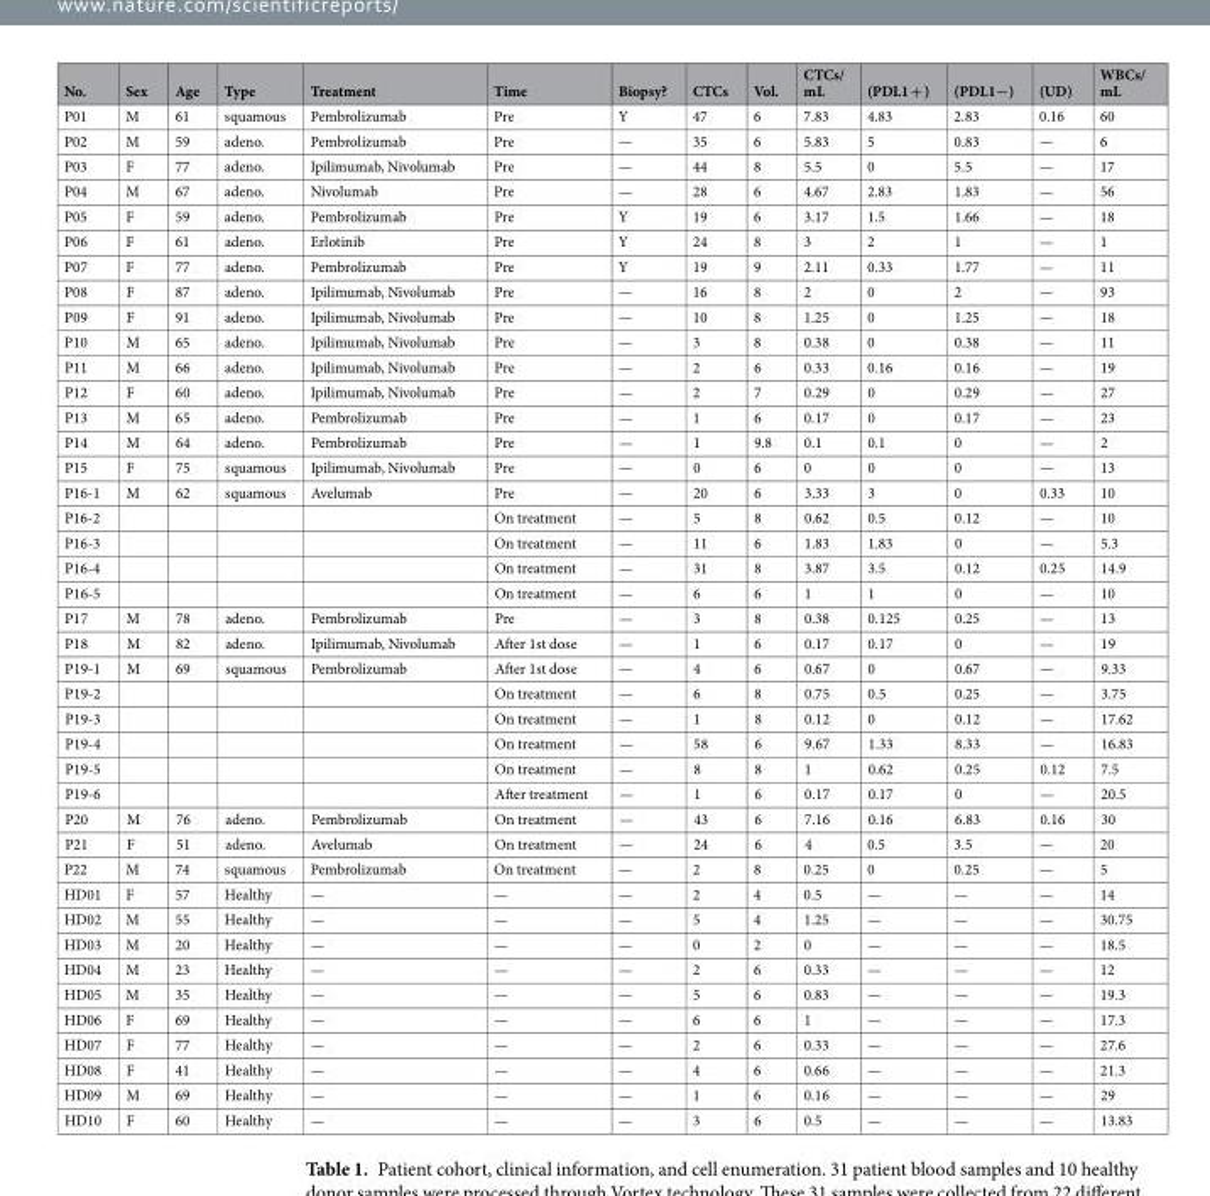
<table><thead><tr><td>No.</td><td>Sex</td><td>Age</td><td>Type</td><td>Treatment</td><td>Time</td><td>Biopsy?</td><td>CTCs</td><td>Vol.</td><td>CTCs/ mL</td><td>(PDL1 + )</td><td>(PDL1−)</td><td>(UD)</td><td>WBCs/ mL</td></tr></thead><tbody><tr><td>P01</td><td>M</td><td>61</td><td>squamous</td><td>Pembrolizumab</td><td>Pre</td><td>Y</td><td>47</td><td>6</td><td>7.83</td><td>4.83</td><td>2.83</td><td>0.16</td><td>60</td></tr><tr><td>P02</td><td>M</td><td>59</td><td>adeno.</td><td>Pembrolizumab</td><td>Pre</td><td>—</td><td>35</td><td>6</td><td>5.83</td><td>5</td><td>0.83</td><td>—</td><td>6</td></tr><tr><td>P03</td><td>F</td><td>77</td><td>adeno.</td><td>Ipilimumab, Nivolumab</td><td>Pre</td><td>—</td><td>44</td><td>8</td><td>5.5</td><td>0</td><td>5.5</td><td>—</td><td>17</td></tr><tr><td>P04</td><td>M</td><td>67</td><td>adeno.</td><td>Nivolumab</td><td>Pre</td><td>—</td><td>28</td><td>6</td><td>4.67</td><td>2.83</td><td>1.83</td><td>—</td><td>56</td></tr><tr><td>P05</td><td>F</td><td>59</td><td>adeno.</td><td>Pembrolizumab</td><td>Pre</td><td>Y</td><td>19</td><td>6</td><td>3.17</td><td>1.5</td><td>1.66</td><td>—</td><td>18</td></tr><tr><td>P06</td><td>F</td><td>61</td><td>adeno.</td><td>Erlotinib</td><td>Pre</td><td>Y</td><td>24</td><td>8</td><td>3</td><td>2</td><td>1</td><td>—</td><td>1</td></tr><tr><td>P07</td><td>F</td><td>77</td><td>adeno.</td><td>Pembrolizumab</td><td>Pre</td><td>Y</td><td>19</td><td>9</td><td>2.11</td><td>0.33</td><td>1.77</td><td>—</td><td>11</td></tr><tr><td>P08</td><td>F</td><td>87</td><td>adeno.</td><td>Ipilimumab, Nivolumab</td><td>Pre</td><td>—</td><td>16</td><td>8</td><td>2</td><td>0</td><td>2</td><td>—</td><td>93</td></tr><tr><td>P09</td><td>F</td><td>91</td><td>adeno.</td><td>Ipilimumab, Nivolumab</td><td>Pre</td><td>—</td><td>10</td><td>8</td><td>1.25</td><td>0</td><td>1.25</td><td>—</td><td>18</td></tr><tr><td>P10</td><td>M</td><td>65</td><td>adeno.</td><td>Ipilimumab, Nivolumab</td><td>Pre</td><td>—</td><td>3</td><td>8</td><td>0.38</td><td>0</td><td>0.38</td><td>—</td><td>11</td></tr><tr><td>P11</td><td>M</td><td>66</td><td>adeno.</td><td>Ipilimumab, Nivolumab</td><td>Pre</td><td>—</td><td>2</td><td>6</td><td>0.33</td><td>0.16</td><td>0.16</td><td>—</td><td>19</td></tr><tr><td>P12</td><td>F</td><td>60</td><td>adeno.</td><td>Ipilimumab, Nivolumab</td><td>Pre</td><td>—</td><td>2</td><td>7</td><td>0.29</td><td>0</td><td>0.29</td><td>—</td><td>27</td></tr><tr><td>P13</td><td>M</td><td>65</td><td>adeno.</td><td>Pembrolizumab</td><td>Pre</td><td>—</td><td>1</td><td>6</td><td>0.17</td><td>0</td><td>0.17</td><td>—</td><td>23</td></tr><tr><td>P14</td><td>M</td><td>64</td><td>adeno.</td><td>Pembrolizumab</td><td>Pre</td><td>—</td><td>1</td><td>9.8</td><td>0.1</td><td>0.1</td><td>0</td><td>—</td><td>2</td></tr><tr><td>P15</td><td>F</td><td>75</td><td>squamous</td><td>Ipilimumab, Nivolumab</td><td>Pre</td><td>—</td><td>0</td><td>6</td><td>0</td><td>0</td><td>0</td><td>—</td><td>13</td></tr><tr><td>P16-1</td><td>M</td><td>62</td><td>squamous</td><td>Avelumab</td><td>Pre</td><td>—</td><td>20</td><td>6</td><td>3.33</td><td>3</td><td>0</td><td>0.33</td><td>10</td></tr><tr><td>P16-2</td><td></td><td></td><td></td><td></td><td>On treatment</td><td>—</td><td>5</td><td>8</td><td>0.62</td><td>0.5</td><td>0.12</td><td>—</td><td>10</td></tr><tr><td>P16-3</td><td></td><td></td><td></td><td></td><td>On treatment</td><td>—</td><td>11</td><td>6</td><td>1.83</td><td>1.83</td><td>0</td><td>—</td><td>5.3</td></tr><tr><td>P16-4</td><td></td><td></td><td></td><td></td><td>On treatment</td><td>—</td><td>31</td><td>8</td><td>3.87</td><td>3.5</td><td>0.12</td><td>0.25</td><td>14.9</td></tr><tr><td>P16-5</td><td></td><td></td><td></td><td></td><td>On treatment</td><td>—</td><td>6</td><td>6</td><td>1</td><td>1</td><td>0</td><td>—</td><td>10</td></tr><tr><td>P17</td><td>M</td><td>78</td><td>adeno.</td><td>Pembrolizumab</td><td>Pre</td><td>—</td><td>3</td><td>8</td><td>0.38</td><td>0.125</td><td>0.25</td><td>—</td><td>13</td></tr><tr><td>P18</td><td>M</td><td>82</td><td>adeno.</td><td>Ipilimumab, Nivolumab</td><td>After 1st dose</td><td>—</td><td>1</td><td>6</td><td>0.17</td><td>0.17</td><td>0</td><td>—</td><td>19</td></tr><tr><td>P19-1</td><td>M</td><td>69</td><td>squamous</td><td>Pembrolizumab</td><td>After 1st dose</td><td>—</td><td>4</td><td>6</td><td>0.67</td><td>0</td><td>0.67</td><td>—</td><td>9.33</td></tr><tr><td>P19-2</td><td></td><td></td><td></td><td></td><td>On treatment</td><td>—</td><td>6</td><td>8</td><td>0.75</td><td>0.5</td><td>0.25</td><td>—</td><td>3.75</td></tr><tr><td>P19-3</td><td></td><td></td><td></td><td></td><td>On treatment</td><td>—</td><td>1</td><td>8</td><td>0.12</td><td>0</td><td>0.12</td><td>—</td><td>17.62</td></tr><tr><td>P19-4</td><td></td><td></td><td></td><td></td><td>On treatment</td><td>—</td><td>58</td><td>6</td><td>9.67</td><td>1.33</td><td>8.33</td><td>—</td><td>16.83</td></tr><tr><td>P19-5</td><td></td><td></td><td></td><td></td><td>On treatment</td><td>—</td><td>8</td><td>8</td><td>1</td><td>0.62</td><td>0.25</td><td>0.12</td><td>7.5</td></tr><tr><td>P19-6</td><td></td><td></td><td></td><td></td><td>After treatment</td><td>—</td><td>1</td><td>6</td><td>0.17</td><td>0.17</td><td>0</td><td>—</td><td>20.5</td></tr><tr><td>P20</td><td>M</td><td>76</td><td>adeno.</td><td>Pembrolizumab</td><td>On treatment</td><td>—</td><td>43</td><td>6</td><td>7.16</td><td>0.16</td><td>6.83</td><td>0.16</td><td>30</td></tr><tr><td>P21</td><td>F</td><td>51</td><td>adeno.</td><td>Avelumab</td><td>On treatment</td><td>—</td><td>24</td><td>6</td><td>4</td><td>0.5</td><td>3.5</td><td>—</td><td>20</td></tr><tr><td>P22</td><td>M</td><td>74</td><td>squamous</td><td>Pembrolizumab</td><td>On treatment</td><td>—</td><td>2</td><td>8</td><td>0.25</td><td>0</td><td>0.25</td><td>—</td><td>5</td></tr><tr><td>HD01</td><td>F</td><td>57</td><td>Healthy</td><td>—</td><td>—</td><td>—</td><td>2</td><td>4</td><td>0.5</td><td>—</td><td>—</td><td>—</td><td>14</td></tr><tr><td>HD02</td><td>M</td><td>55</td><td>Healthy</td><td>—</td><td>—</td><td>—</td><td>5</td><td>4</td><td>1.25</td><td>—</td><td>—</td><td>—</td><td>30.75</td></tr><tr><td>HD03</td><td>M</td><td>20</td><td>Healthy</td><td>—</td><td>—</td><td>—</td><td>0</td><td>2</td><td>0</td><td>—</td><td>—</td><td>—</td><td>18.5</td></tr><tr><td>HD04</td><td>M</td><td>23</td><td>Healthy</td><td>—</td><td>—</td><td>—</td><td>2</td><td>6</td><td>0.33</td><td>—</td><td>—</td><td>—</td><td>12</td></tr><tr><td>HD05</td><td>M</td><td>35</td><td>Healthy</td><td>—</td><td>—</td><td>—</td><td>5</td><td>6</td><td>0.83</td><td>—</td><td>—</td><td>—</td><td>19.3</td></tr><tr><td>HD06</td><td>F</td><td>69</td><td>Healthy</td><td>—</td><td>—</td><td>—</td><td>6</td><td>6</td><td>1</td><td>—</td><td>—</td><td>—</td><td>17.3</td></tr><tr><td>HD07</td><td>F</td><td>77</td><td>Healthy</td><td>—</td><td>—</td><td>—</td><td>2</td><td>6</td><td>0.33</td><td>—</td><td>—</td><td>—</td><td>27.6</td></tr><tr><td>HD08</td><td>F</td><td>41</td><td>Healthy</td><td>—</td><td>—</td><td>—</td><td>4</td><td>6</td><td>0.66</td><td>—</td><td>—</td><td>—</td><td>21.3</td></tr><tr><td>HD09</td><td>M</td><td>69</td><td>Healthy</td><td>—</td><td>—</td><td>—</td><td>1</td><td>6</td><td>0.16</td><td>—</td><td>—</td><td>—</td><td>29</td></tr><tr><td>HD10</td><td>F</td><td>60</td><td>Healthy</td><td>—</td><td>—</td><td>—</td><td>3</td><td>6</td><td>0.5</td><td>—</td><td>—</td><td>—</td><td>13.83</td></tr></tbody></table>